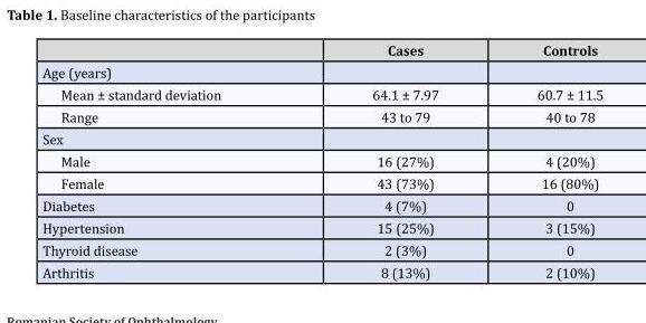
<table><thead><tr><td></td><td>Cases</td><td>Controls</td></tr></thead><tbody><tr><td colspan="3">Age (years)</td></tr><tr><td>Mean ± standard deviation</td><td>64.1 ± 7.97</td><td>60.7 ± 11.5</td></tr><tr><td>Range</td><td>43 to 79</td><td>40 to 78</td></tr><tr><td colspan="3">Sex</td></tr><tr><td>Male</td><td>16 (27%)</td><td>4 (20%)</td></tr><tr><td>Female</td><td>43 (73%)</td><td>16 (80%)</td></tr><tr><td>Diabetes</td><td>4 (7%)</td><td>0</td></tr><tr><td>Hypertension</td><td>15 (25%)</td><td>3 (15%)</td></tr><tr><td>Thyroid disease</td><td>2 (3%)</td><td>0</td></tr><tr><td>Arthritis</td><td>8 (13%)</td><td>2 (10%)</td></tr></tbody></table>